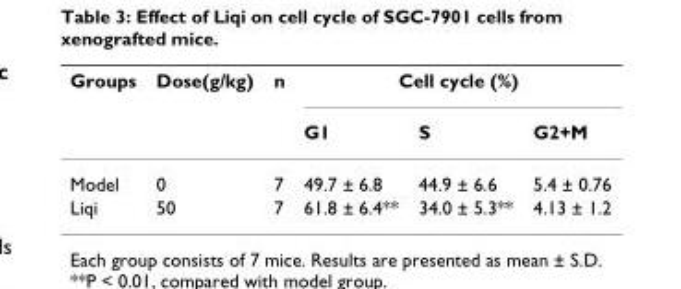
<table><thead><tr><td rowspan="2">Groups</td><td rowspan="2">Dose(g/kg)</td><td rowspan="2">n</td><td colspan="3">Cell cycle (%)</td></tr><tr><td>G1</td><td>S</td><td>G2+M</td></tr></thead><tbody><tr><td>Model</td><td>0</td><td>7</td><td>49.7 ± 6.8</td><td>44.9 ± 6.6</td><td>5.4 ± 0.76</td></tr><tr><td>Liqi</td><td>50</td><td>7</td><td>61.8 ± 6.4**</td><td>34.0 ± 5.3**</td><td>4.13 ± 1.2</td></tr></tbody></table>